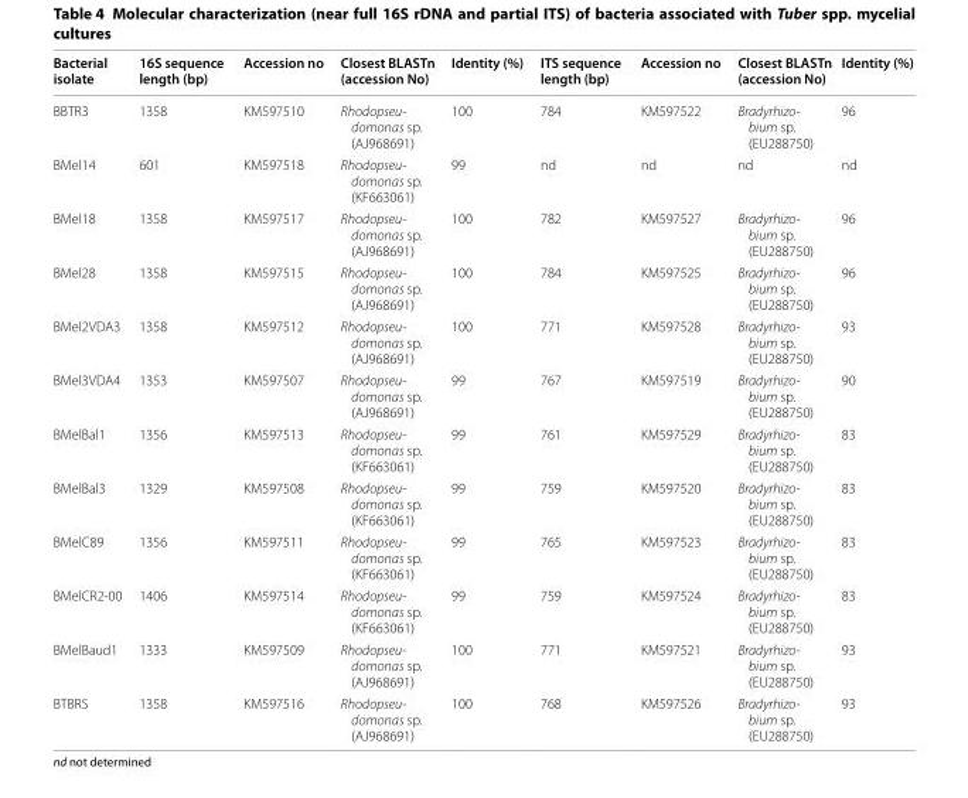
<table><thead><tr><td>Bacterial isolate</td><td>16S sequence length (bp)</td><td>Accession no</td><td>Closest BLASTn (accession No)</td><td>Identity (%)</td><td>ITS sequence length (bp)</td><td>Accession no</td><td>Closest BLASTn (accession No)</td><td>Identity (%)</td></tr></thead><tbody><tr><td>BBTR3</td><td>1358</td><td>KM597510</td><td>Rhodopseu- domonas sp. (AJ968691)</td><td>100</td><td>784</td><td>KM597522</td><td>Bradyrhizo- bium sp. (EU288750)</td><td>96</td></tr><tr><td>BMel14</td><td>601</td><td>KM597518</td><td>Rhodopseu- domonas sp. (KF663061)</td><td>99</td><td>nd</td><td>nd</td><td>nd</td><td>nd</td></tr><tr><td>BMel18</td><td>1358</td><td>KM597517</td><td>Rhodopseu- domonas sp. (AJ968691)</td><td>100</td><td>782</td><td>KM597527</td><td>Bradyrhizo- bium sp. (EU288750)</td><td>96</td></tr><tr><td>BMel28</td><td>1358</td><td>KM597515</td><td>Rhodopseu- domonas sp. (AJ968691)</td><td>100</td><td>784</td><td>KM597525</td><td>Bradyrhizo- bium sp. (EU288750)</td><td>96</td></tr><tr><td>BMel2VDA3</td><td>1358</td><td>KM597512</td><td>Rhodopseu- domonas sp. (AJ968691)</td><td>100</td><td>771</td><td>KM597528</td><td>Bradyrhizo- bium sp. (EU288750)</td><td>93</td></tr><tr><td>BMel3VDA4</td><td>1353</td><td>KM597507</td><td>Rhodopseu- domonas sp. (AJ968691)</td><td>99</td><td>767</td><td>KM597519</td><td>Bradyrhizo- bium sp. (EU288750)</td><td>90</td></tr><tr><td>BMelBal1</td><td>1356</td><td>KM597513</td><td>Rhodopseu- domonas sp. (KF663061)</td><td>99</td><td>761</td><td>KM597529</td><td>Bradyrhizo- bium sp. (EU288750)</td><td>83</td></tr><tr><td>BMelBal3</td><td>1329</td><td>KM597508</td><td>Rhodopseu- domonas sp. (KF663061)</td><td>99</td><td>759</td><td>KM597520</td><td>Bradyrhizo- bium sp. (EU288750)</td><td>83</td></tr><tr><td>BMelC89</td><td>1356</td><td>KM597511</td><td>Rhodopseu- domonas sp. (KF663061)</td><td>99</td><td>765</td><td>KM597523</td><td>Bradyrhizo- bium sp. (EU288750)</td><td>83</td></tr><tr><td>BMelCR2-00</td><td>1406</td><td>KM597514</td><td>Rhodopseu- domonas sp. (KF663061)</td><td>99</td><td>759</td><td>KM597524</td><td>Bradyrhizo- bium sp. (EU288750)</td><td>83</td></tr><tr><td>BMelBaud1</td><td>1333</td><td>KM597509</td><td>Rhodopseu- domonas sp. (AJ968691)</td><td>100</td><td>771</td><td>KM597521</td><td>Bradyrhizo- bium sp. (EU288750)</td><td>93</td></tr><tr><td>BTBRS</td><td>1358</td><td>KM597516</td><td>Rhodopseu- domonas sp. (AJ968691)</td><td>100</td><td>768</td><td>KM597526</td><td>Bradyrhizo- bium sp. (EU288750)</td><td>93</td></tr></tbody></table>